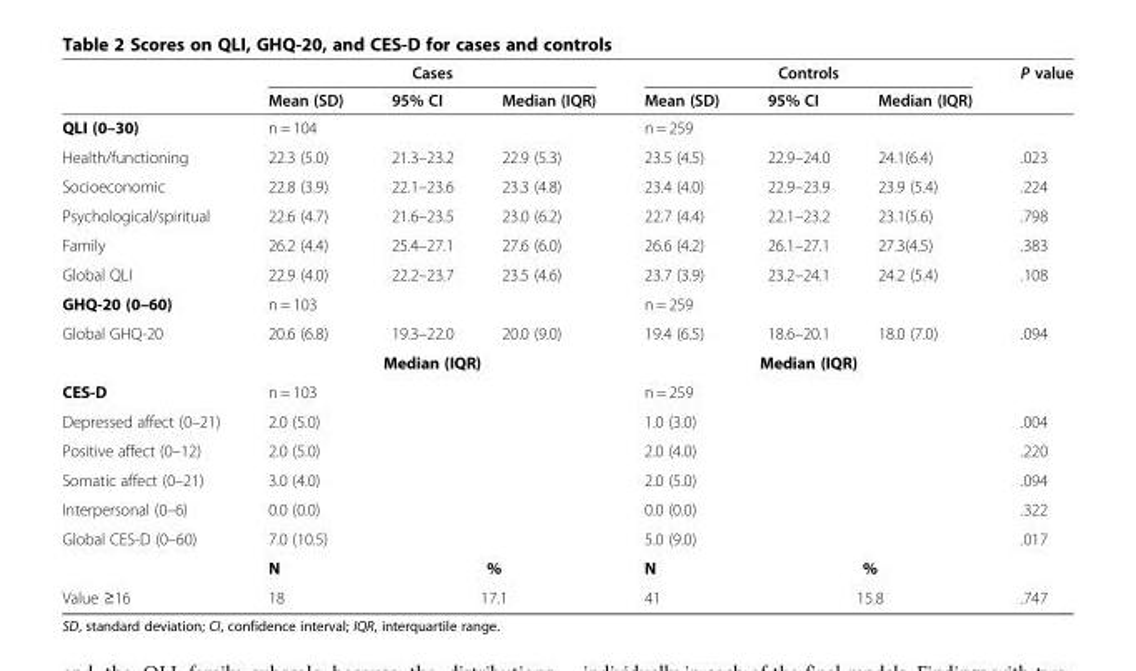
<table><thead><tr><td rowspan="2"></td><td colspan="3">Cases</td><td colspan="3">Controls</td><td rowspan="2">P value</td></tr><tr><td>Mean (SD)</td><td>95% CI</td><td>Median (IQR)</td><td>Mean (SD)</td><td>95% CI</td><td>Median (IQR)</td></tr></thead><tbody><tr><td>QLI (0–30)</td><td>n = 104</td><td></td><td></td><td>n = 259</td><td></td><td></td><td></td></tr><tr><td>Health/functioning</td><td>22.3 (5.0)</td><td>21.3–23.2</td><td>22.9 (5.3)</td><td>23.5 (4.5)</td><td>22.9–24.0</td><td>24.1(6.4)</td><td>.023</td></tr><tr><td>Socioeconomic</td><td>22.8 (3.9)</td><td>22.1–23.6</td><td>23.3 (4.8)</td><td>23.4 (4.0)</td><td>22.9–23.9</td><td>23.9 (5.4)</td><td>.224</td></tr><tr><td>Psychological/spiritual</td><td>22.6 (4.7)</td><td>21.6–23.5</td><td>23.0 (6.2)</td><td>22.7 (4.4)</td><td>22.1–23.2</td><td>23.1(5.6)</td><td>.798</td></tr><tr><td>Family</td><td>26.2 (4.4)</td><td>25.4–27.1</td><td>27.6 (6.0)</td><td>26.6 (4.2)</td><td>26.1–27.1</td><td>27.3(4.5)</td><td>.383</td></tr><tr><td>Global QLI</td><td>22.9 (4.0)</td><td>22.2–23.7</td><td>23.5 (4.6)</td><td>23.7 (3.9)</td><td>23.2–24.1</td><td>24.2 (5.4)</td><td>.108</td></tr><tr><td>GHQ-20 (0–60)</td><td>n = 103</td><td></td><td></td><td>n = 259</td><td></td><td></td><td></td></tr><tr><td rowspan="2">Global GHQ-20</td><td>20.6 (6.8)</td><td>19.3–22.0</td><td>20.0 (9.0)</td><td>19.4 (6.5)</td><td>18.6–20.1</td><td>18.0 (7.0)</td><td>.094</td></tr><tr><td colspan="3">Median (IQR)</td><td colspan="3">Median (IQR)</td><td></td></tr><tr><td>CES-D</td><td colspan="3">n = 103</td><td colspan="3">n = 259</td><td></td></tr><tr><td>Depressed affect (0–21)</td><td colspan="3">2.0 (5.0)</td><td colspan="3">1.0 (3.0)</td><td>.004</td></tr><tr><td>Positive affect (0–12)</td><td colspan="3">2.0 (5.0)</td><td colspan="3">2.0 (4.0)</td><td>.220</td></tr><tr><td>Somatic affect (0–21)</td><td colspan="3">3.0 (4.0)</td><td colspan="3">2.0 (5.0)</td><td>.094</td></tr><tr><td>Interpersonal (0–6)</td><td colspan="3">0.0 (0.0)</td><td colspan="3">0.0 (0.0)</td><td>.322</td></tr><tr><td rowspan="2">Global CES-D (0–60)</td><td colspan="3">7.0 (10.5)</td><td colspan="3">5.0 (9.0)</td><td>.017</td></tr><tr><td>N</td><td colspan="2">%</td><td>N</td><td colspan="2">%</td><td></td></tr><tr><td>Value ≥16</td><td>18</td><td colspan="2">17.1</td><td>41</td><td colspan="2">15.8</td><td>.747</td></tr></tbody></table>